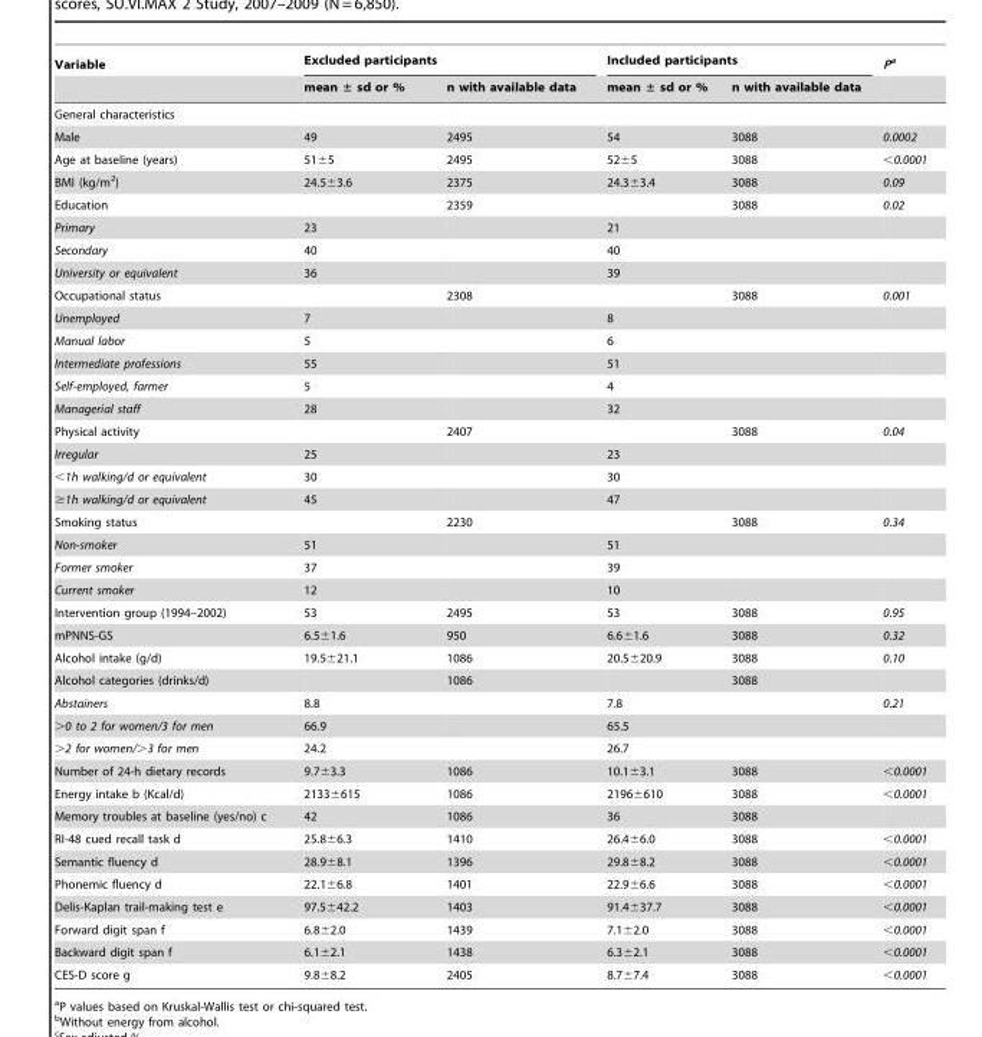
<table><thead><tr><td rowspan="2">Variable</td><td colspan="2">Excluded participants</td><td colspan="2">Included participants</td><td rowspan="2">Pa</td></tr><tr><td>mean ± sd or %</td><td>n with available data</td><td>mean ± sd or %</td><td>n with available data</td></tr></thead><tbody><tr><td colspan="6">General characteristics</td></tr><tr><td>Male</td><td>49</td><td>2495</td><td>54</td><td>3088</td><td>0.0002</td></tr><tr><td>Age at baseline (years)</td><td>51±5</td><td>2495</td><td>52±5</td><td>3088</td><td>&lt;0.0001</td></tr><tr><td>BMI (kg/m<sup>2</sup>)</td><td>24.5±3.6</td><td>2375</td><td>24.3±3.4</td><td>3088</td><td>0.09</td></tr><tr><td>Education</td><td></td><td>2359</td><td></td><td>3088</td><td>0.02</td></tr><tr><td>Primary</td><td>23</td><td></td><td>21</td><td></td><td></td></tr><tr><td>Secondary</td><td>40</td><td></td><td>40</td><td></td><td></td></tr><tr><td>University or equivalent</td><td>36</td><td></td><td>39</td><td></td><td></td></tr><tr><td>Occupational status</td><td></td><td>2308</td><td></td><td>3088</td><td>0.001</td></tr><tr><td>Unemployed</td><td>7</td><td></td><td>8</td><td></td><td></td></tr><tr><td>Manual labor</td><td>5</td><td></td><td>6</td><td></td><td></td></tr><tr><td>Intermediate professions</td><td>55</td><td></td><td>51</td><td></td><td></td></tr><tr><td>Self-employed, farmer</td><td>5</td><td></td><td>4</td><td></td><td></td></tr><tr><td>Managerial staff</td><td>28</td><td></td><td>32</td><td></td><td></td></tr><tr><td>Physical activity</td><td></td><td>2407</td><td></td><td>3088</td><td>0.04</td></tr><tr><td>Irregular</td><td>25</td><td></td><td>23</td><td></td><td></td></tr><tr><td>&lt;1h walking/d or equivalent</td><td>30</td><td></td><td>30</td><td></td><td></td></tr><tr><td>≥1h walking/d or equivalent</td><td>45</td><td></td><td>47</td><td></td><td></td></tr><tr><td>Smoking status</td><td></td><td>2230</td><td></td><td>3088</td><td>0.34</td></tr><tr><td>Non-smoker</td><td>51</td><td></td><td>51</td><td></td><td></td></tr><tr><td>Former smoker</td><td>37</td><td></td><td>39</td><td></td><td></td></tr><tr><td>Current smoker</td><td>12</td><td></td><td>10</td><td></td><td></td></tr><tr><td>Intervention group (1994–2002)</td><td>53</td><td>2495</td><td>53</td><td>3088</td><td>0.95</td></tr><tr><td>mPNNS-GS</td><td>6.5±1.6</td><td>950</td><td>6.6±1.6</td><td>3088</td><td>0.32</td></tr><tr><td>Alcohol intake (g/d)</td><td>19.5±21.1</td><td>1086</td><td>20.5±20.9</td><td>3088</td><td>0.10</td></tr><tr><td>Alcohol categories (drinks/d)</td><td></td><td>1086</td><td></td><td>3088</td><td></td></tr><tr><td>Abstainers</td><td>8.8</td><td></td><td>7.8</td><td></td><td>0.21</td></tr><tr><td>&gt;0 to 2 for women/3 for men</td><td>66.9</td><td></td><td>65.5</td><td></td><td></td></tr><tr><td>&gt;2 for women/&gt;3 for men</td><td>24.2</td><td></td><td>26.7</td><td></td><td></td></tr><tr><td>Number of 24-h dietary records</td><td>9.7±3.3</td><td>1086</td><td>10.1±3.1</td><td>3088</td><td>&lt;0.0001</td></tr><tr><td>Energy intake b (Kcal/d)</td><td>2133±615</td><td>1086</td><td>2196±610</td><td>3088</td><td>&lt;0.0001</td></tr><tr><td>Memory troubles at baseline (yes/no) c</td><td>42</td><td>1086</td><td>36</td><td>3088</td><td></td></tr><tr><td>RI-48 cued recall task d</td><td>25.8±6.3</td><td>1410</td><td>26.4±6.0</td><td>3088</td><td>&lt;0.0001</td></tr><tr><td>Semantic fluency d</td><td>28.9±8.1</td><td>1396</td><td>29.8±8.2</td><td>3088</td><td>&lt;0.0001</td></tr><tr><td>Phonemic fluency d</td><td>22.1±6.8</td><td>1401</td><td>22.9±6.6</td><td>3088</td><td>&lt;0.0001</td></tr><tr><td>Delis-Kaplan trail-making test e</td><td>97.5±42.2</td><td>1403</td><td>91.4±37.7</td><td>3088</td><td>&lt;0.0001</td></tr><tr><td>Forward digit span f</td><td>6.8±2.0</td><td>1439</td><td>7.1±2.0</td><td>3088</td><td>&lt;0.0001</td></tr><tr><td>Backward digit span f</td><td>6.1±2.1</td><td>1438</td><td>6.3±2.1</td><td>3088</td><td>&lt;0.0001</td></tr><tr><td>CES-D score g</td><td>9.8±8.2</td><td>2405</td><td>8.7±7.4</td><td>3088</td><td>&lt;0.0001</td></tr></tbody></table>